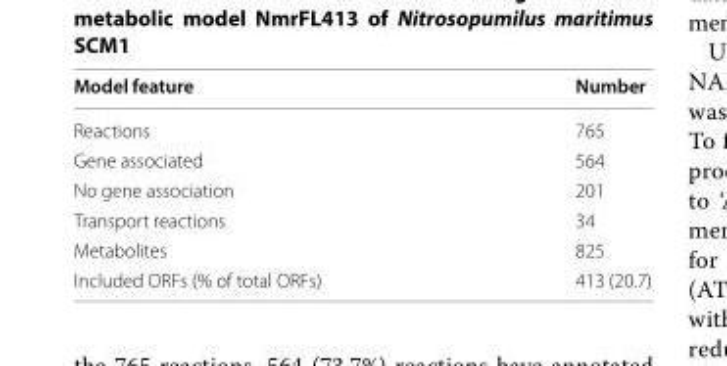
<table><thead><tr><td>Model feature</td><td>Number</td></tr></thead><tbody><tr><td>Reactions</td><td>765</td></tr><tr><td>Gene associated</td><td>564</td></tr><tr><td>No gene association</td><td>201</td></tr><tr><td>Transport reactions</td><td>34</td></tr><tr><td>Metabolites</td><td>825</td></tr><tr><td>Included ORFs (% of total ORFs)</td><td>413 (20.7)</td></tr></tbody></table>